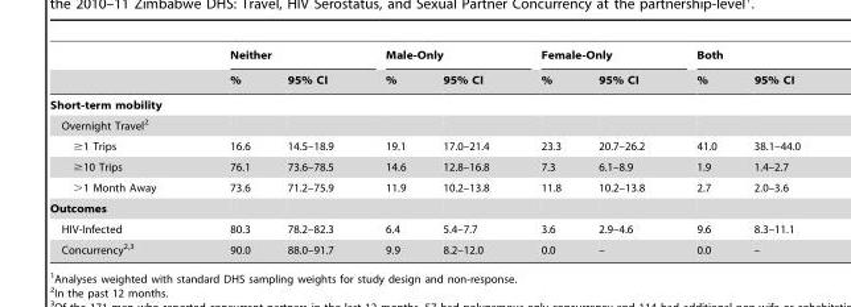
<table><thead><tr><td rowspan="2"></td><td colspan="2">Neither</td><td colspan="2">Male-Only</td><td colspan="2">Female-Only</td><td colspan="2">Both</td></tr><tr><td>%</td><td>95% CI</td><td>%</td><td>95% CI</td><td>%</td><td>95% CI</td><td>%</td><td>95% CI</td></tr></thead><tbody><tr><td colspan="9">Short-term mobility</td></tr><tr><td colspan="9">Overnight Travel<sup>2</sup></td></tr><tr><td>≥1 Trips</td><td>16.6</td><td>14.5–18.9</td><td>19.1</td><td>17.0–21.4</td><td>23.3</td><td>20.7–26.2</td><td>41.0</td><td>38.1–44.0</td></tr><tr><td>≥10 Trips</td><td>76.1</td><td>73.6–78.5</td><td>14.6</td><td>12.8–16.8</td><td>7.3</td><td>6.1–8.9</td><td>1.9</td><td>1.4–2.7</td></tr><tr><td>&gt;1 Month Away</td><td>73.6</td><td>71.2–75.9</td><td>11.9</td><td>10.2–13.8</td><td>11.8</td><td>10.2–13.8</td><td>2.7</td><td>2.0–3.6</td></tr><tr><td colspan="9">Outcomes</td></tr><tr><td>HIV-Infected</td><td>80.3</td><td>78.2–82.3</td><td>6.4</td><td>5.4–7.7</td><td>3.6</td><td>2.9–4.6</td><td>9.6</td><td>8.3–11.1</td></tr><tr><td>Concurrency<sup>2,3</sup></td><td>90.0</td><td>88.0–91.7</td><td>9.9</td><td>8.2–12.0</td><td>0.0</td><td>–</td><td>0.0</td><td>–</td></tr></tbody></table>